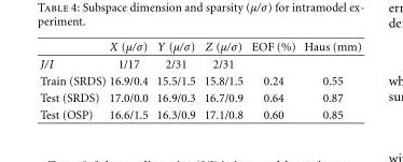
<table><thead><tr><td></td><td>X (μ/σ)</td><td>Y (μ/σ)</td><td>Z (μ/σ)</td><td>EOF (%)</td><td>Haus (mm)</td></tr></thead><tbody><tr><td>J/I</td><td>1/17</td><td>2/31</td><td>2/31</td><td></td><td></td></tr><tr><td>Train (SRDS)</td><td>16.9/0.4</td><td>15.5/1.5</td><td>15.8/1.5</td><td>0.24</td><td>0.55</td></tr><tr><td>Test (SRDS)</td><td>17.0/0.0</td><td>16.9/0.3</td><td>16.7/0.9</td><td>0.64</td><td>0.87</td></tr><tr><td>Test (OSP)</td><td>16.6/1.5</td><td>16.3/0.9</td><td>17.1/0.8</td><td>0.60</td><td>0.85</td></tr></tbody></table>